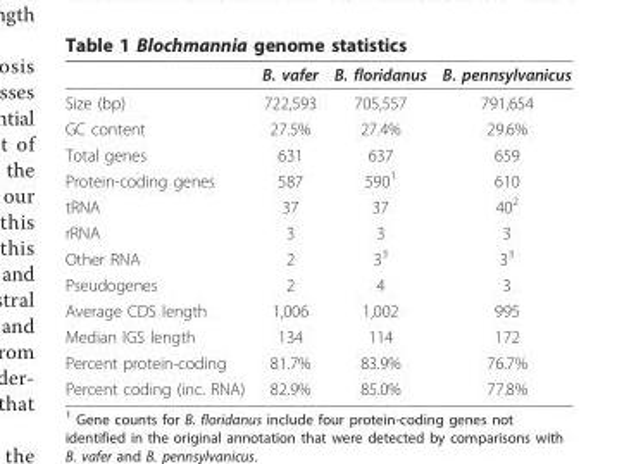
<table><thead><tr><td></td><td>B. vafer</td><td>B. floridanus</td><td>B. pennsylvanicus</td></tr></thead><tbody><tr><td>Size (bp)</td><td>722,593</td><td>705,557</td><td>791,654</td></tr><tr><td>GC content</td><td>27.5%</td><td>27.4%</td><td>29.6%</td></tr><tr><td>Total genes</td><td>631</td><td>637</td><td>659</td></tr><tr><td>Protein-coding genes</td><td>587</td><td>590<sup>1</sup></td><td>610</td></tr><tr><td>tRNA</td><td>37</td><td>37</td><td>40<sup>2</sup></td></tr><tr><td>rRNA</td><td>3</td><td>3</td><td>3</td></tr><tr><td>Other RNA</td><td>2</td><td>3<sup>3</sup></td><td>3<sup>3</sup></td></tr><tr><td>Pseudogenes</td><td>2</td><td>4</td><td>3</td></tr><tr><td>Average CDS length</td><td>1,006</td><td>1,002</td><td>995</td></tr><tr><td>Median IGS length</td><td>134</td><td>114</td><td>172</td></tr><tr><td>Percent protein-coding</td><td>81.7%</td><td>83.9%</td><td>76.7%</td></tr><tr><td>Percent coding (inc. RNA)</td><td>82.9%</td><td>85.0%</td><td>77.8%</td></tr></tbody></table>